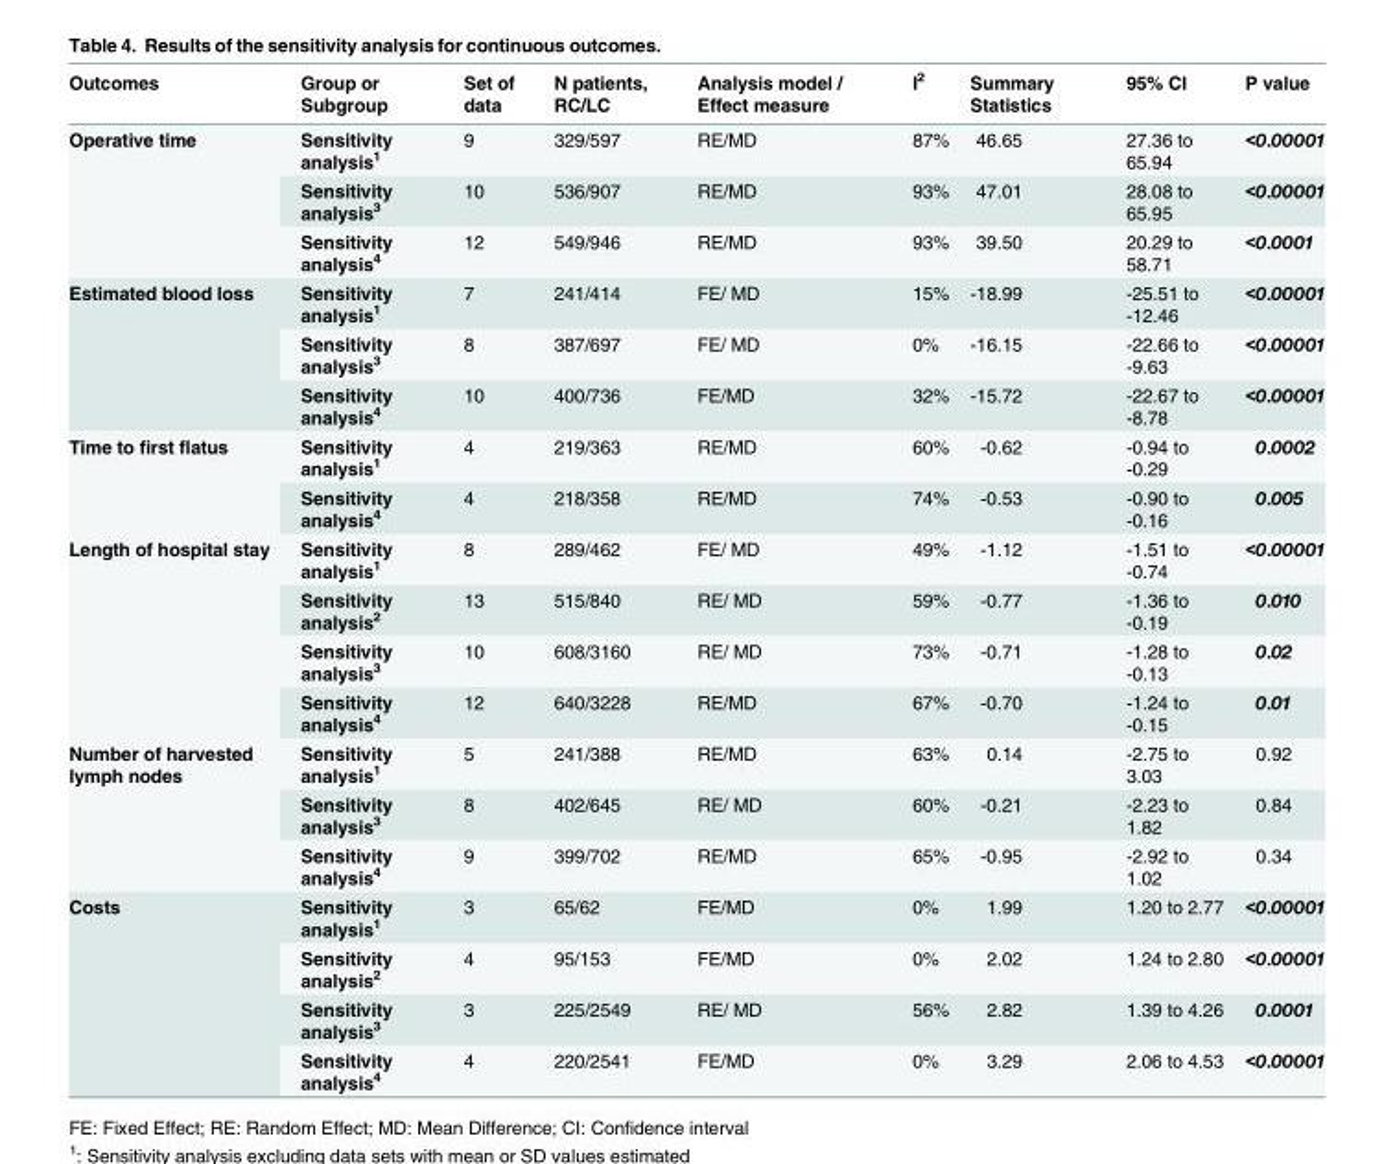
<table><thead><tr><td>Outcomes</td><td>Group or Subgroup</td><td>Set of data</td><td>N patients, RC/LC</td><td>Analysis model / Effect measure</td><td>I<sup>2</sup></td><td>Summary Statistics</td><td>95% CI</td><td>P value</td></tr></thead><tbody><tr><td rowspan="3">Operative time</td><td>Sensitivity analysis<sup>1</sup></td><td>9</td><td>329/597</td><td>RE/MD</td><td>87%</td><td>46.65</td><td>27.36 to 65.94</td><td>&lt;0.00001</td></tr><tr><td>Sensitivity analysis<sup>3</sup></td><td>10</td><td>536/907</td><td>RE/MD</td><td>93%</td><td>47.01</td><td>28.08 to 65.95</td><td>&lt;0.00001</td></tr><tr><td>Sensitivity analysis<sup>4</sup></td><td>12</td><td>549/946</td><td>RE/MD</td><td>93%</td><td>39.50</td><td>20.29 to 58.71</td><td>&lt;0.0001</td></tr><tr><td rowspan="3">Estimated blood loss</td><td>Sensitivity analysis<sup>1</sup></td><td>7</td><td>241/414</td><td>FE/ MD</td><td>15%</td><td>-18.99</td><td>-25.51 to -12.46</td><td>&lt;0.00001</td></tr><tr><td>Sensitivity analysis<sup>3</sup></td><td>8</td><td>387/697</td><td>FE/ MD</td><td>0%</td><td>-16.15</td><td>-22.66 to -9.63</td><td>&lt;0.00001</td></tr><tr><td>Sensitivity analysis<sup>4</sup></td><td>10</td><td>400/736</td><td>FE/MD</td><td>32%</td><td>-15.72</td><td>-22.67 to -8.78</td><td>&lt;0.00001</td></tr><tr><td rowspan="2">Time to first flatus</td><td>Sensitivity analysis<sup>1</sup></td><td>4</td><td>219/363</td><td>RE/MD</td><td>60%</td><td>-0.62</td><td>-0.94 to -0.29</td><td>0.0002</td></tr><tr><td>Sensitivity analysis<sup>4</sup></td><td>4</td><td>218/358</td><td>RE/MD</td><td>74%</td><td>-0.53</td><td>-0.90 to -0.16</td><td>0.005</td></tr><tr><td rowspan="4">Length of hospital stay</td><td>Sensitivity analysis<sup>1</sup></td><td>8</td><td>289/462</td><td>FE/ MD</td><td>49%</td><td>-1.12</td><td>-1.51 to -0.74</td><td>&lt;0.00001</td></tr><tr><td>Sensitivity analysis<sup>2</sup></td><td>13</td><td>515/840</td><td>RE/ MD</td><td>59%</td><td>-0.77</td><td>-1.36 to -0.19</td><td>0.010</td></tr><tr><td>Sensitivity analysis<sup>3</sup></td><td>10</td><td>608/3160</td><td>RE/ MD</td><td>73%</td><td>-0.71</td><td>-1.28 to -0.13</td><td>0.02</td></tr><tr><td>Sensitivity analysis<sup>4</sup></td><td>12</td><td>640/3228</td><td>RE/MD</td><td>67%</td><td>-0.70</td><td>-1.24 to -0.15</td><td>0.01</td></tr><tr><td rowspan="3">Number of harvested lymph nodes</td><td>Sensitivity analysis<sup>1</sup></td><td>5</td><td>241/388</td><td>RE/MD</td><td>63%</td><td>0.14</td><td>-2.75 to 3.03</td><td>0.92</td></tr><tr><td>Sensitivity analysis<sup>3</sup></td><td>8</td><td>402/645</td><td>RE/ MD</td><td>60%</td><td>-0.21</td><td>-2.23 to 1.82</td><td>0.84</td></tr><tr><td>Sensitivity analysis<sup>4</sup></td><td>9</td><td>399/702</td><td>RE/MD</td><td>65%</td><td>-0.95</td><td>-2.92 to 1.02</td><td>0.34</td></tr><tr><td rowspan="4">Costs</td><td>Sensitivity analysis<sup>1</sup></td><td>3</td><td>65/62</td><td>FE/MD</td><td>0%</td><td>1.99</td><td>1.20 to 2.77</td><td>&lt;0.00001</td></tr><tr><td>Sensitivity analysis<sup>2</sup></td><td>4</td><td>95/153</td><td>FE/MD</td><td>0%</td><td>2.02</td><td>1.24 to 2.80</td><td>&lt;0.00001</td></tr><tr><td>Sensitivity analysis<sup>3</sup></td><td>3</td><td>225/2549</td><td>RE/ MD</td><td>56%</td><td>2.82</td><td>1.39 to 4.26</td><td>0.0001</td></tr><tr><td>Sensitivity analysis<sup>4</sup></td><td>4</td><td>220/2541</td><td>FE/MD</td><td>0%</td><td>3.29</td><td>2.06 to 4.53</td><td>&lt;0.00001</td></tr></tbody></table>